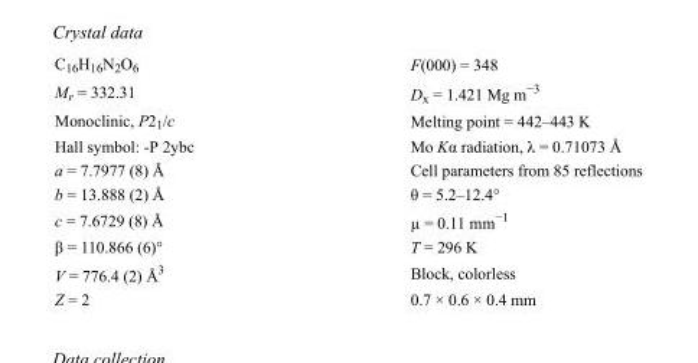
<table><tbody><tr><td>C<sub>16</sub>H<sub>16</sub>N<sub>2</sub>O<sub>6</sub></td><td>F(000) = 348</td></tr><tr><td>M<sub>r</sub> = 332.31</td><td>D<sub>x</sub> = 1.421 Mg m<sup>−3</sup></td></tr><tr><td>Monoclinic, P2<sub>1</sub>/c</td><td>Melting point = 442–443 K</td></tr><tr><td>Hall symbol: -P 2ybc</td><td>Mo Kα radiation, λ = 0.71073 Å</td></tr><tr><td>a = 7.7977 (8) Å</td><td>Cell parameters from 85 reflections</td></tr><tr><td>b = 13.888 (2) Å</td><td>θ = 5.2–12.4°</td></tr><tr><td>c = 7.6729 (8) Å</td><td>µ = 0.11 mm<sup>−1</sup></td></tr><tr><td>β = 110.866 (6)°</td><td>T = 296 K</td></tr><tr><td>V = 776.4 (2) Å<sup>3</sup></td><td>Block, colorless</td></tr><tr><td>Z = 2</td><td>0.7 × 0.6 × 0.4 mm</td></tr></tbody></table>